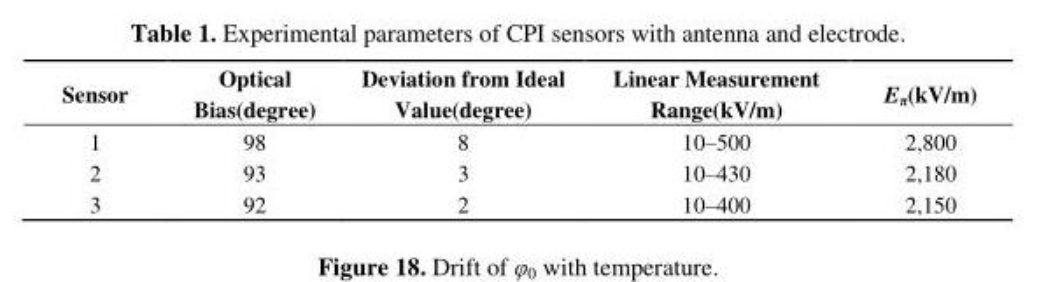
<table><thead><tr><td>Sensor</td><td>Optical Bias(degree)</td><td>Deviation from Ideal Value(degree)</td><td>Linear Measurement Range(kV/m)</td><td>E<sub>π</sub>(kV/m)</td></tr></thead><tbody><tr><td>1</td><td>98</td><td>8</td><td>10–500</td><td>2,800</td></tr><tr><td>2</td><td>93</td><td>3</td><td>10–430</td><td>2,180</td></tr><tr><td>3</td><td>92</td><td>2</td><td>10–400</td><td>2,150</td></tr></tbody></table>